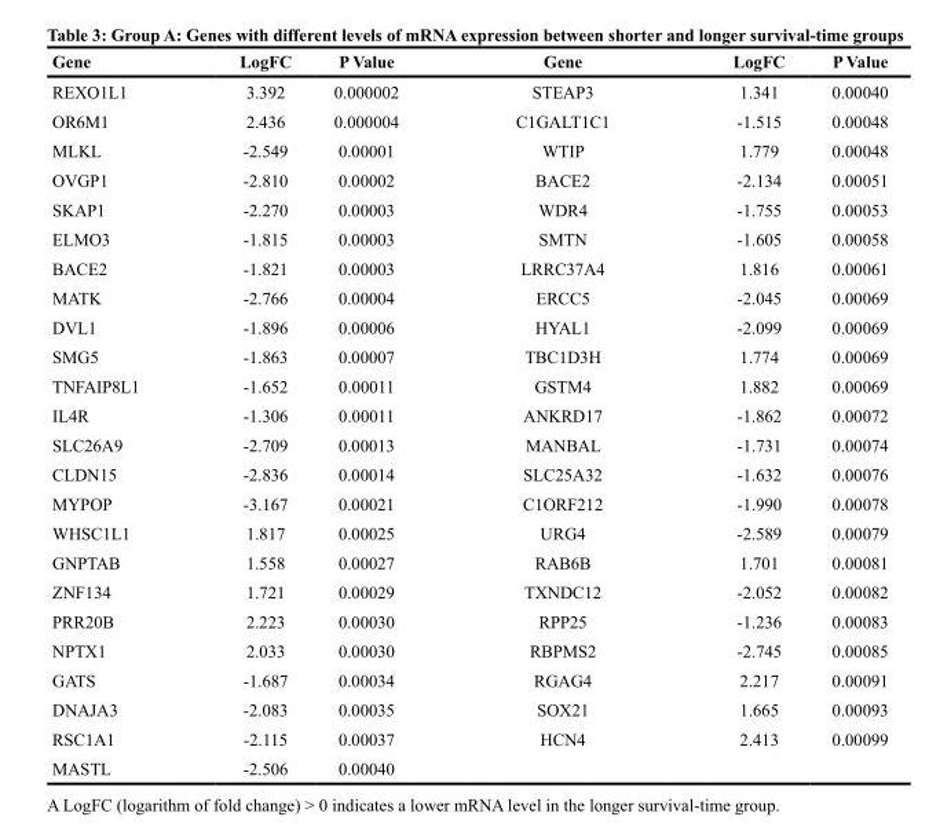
<table><thead><tr><td>Gene</td><td>LogFC</td><td>P Value</td><td>Gene</td><td>LogFC</td><td>P Value</td></tr></thead><tbody><tr><td>REXO1L1</td><td>3.392</td><td>0.000002</td><td>STEAP3</td><td>1.341</td><td>0.00040</td></tr><tr><td>OR6M1</td><td>2.436</td><td>0.000004</td><td>C1GALT1C1</td><td>-1.515</td><td>0.00048</td></tr><tr><td>MLKL</td><td>-2.549</td><td>0.00001</td><td>WTIP</td><td>1.779</td><td>0.00048</td></tr><tr><td>OVGP1</td><td>-2.810</td><td>0.00002</td><td>BACE2</td><td>-2.134</td><td>0.00051</td></tr><tr><td>SKAP1</td><td>-2.270</td><td>0.00003</td><td>WDR4</td><td>-1.755</td><td>0.00053</td></tr><tr><td>ELMO3</td><td>-1.815</td><td>0.00003</td><td>SMTN</td><td>-1.605</td><td>0.00058</td></tr><tr><td>BACE2</td><td>-1.821</td><td>0.00003</td><td>LRRC37A4</td><td>1.816</td><td>0.00061</td></tr><tr><td>MATK</td><td>-2.766</td><td>0.00004</td><td>ERCC5</td><td>-2.045</td><td>0.00069</td></tr><tr><td>DVL1</td><td>-1.896</td><td>0.00006</td><td>HYAL1</td><td>-2.099</td><td>0.00069</td></tr><tr><td>SMG5</td><td>-1.863</td><td>0.00007</td><td>TBC1D3H</td><td>1.774</td><td>0.00069</td></tr><tr><td>TNFAIP8L1</td><td>-1.652</td><td>0.00011</td><td>GSTM4</td><td>1.882</td><td>0.00069</td></tr><tr><td>IL4R</td><td>-1.306</td><td>0.00011</td><td>ANKRD17</td><td>-1.862</td><td>0.00072</td></tr><tr><td>SLC26A9</td><td>-2.709</td><td>0.00013</td><td>MANBAL</td><td>-1.731</td><td>0.00074</td></tr><tr><td>CLDN15</td><td>-2.836</td><td>0.00014</td><td>SLC25A32</td><td>-1.632</td><td>0.00076</td></tr><tr><td>MYPOP</td><td>-3.167</td><td>0.00021</td><td>C1ORF212</td><td>-1.990</td><td>0.00078</td></tr><tr><td>WHSC1L1</td><td>1.817</td><td>0.00025</td><td>URG4</td><td>-2.589</td><td>0.00079</td></tr><tr><td>GNPTAB</td><td>1.558</td><td>0.00027</td><td>RAB6B</td><td>1.701</td><td>0.00081</td></tr><tr><td>ZNF134</td><td>1.721</td><td>0.00029</td><td>TXNDC12</td><td>-2.052</td><td>0.00082</td></tr><tr><td>PRR20B</td><td>2.223</td><td>0.00030</td><td>RPP25</td><td>-1.236</td><td>0.00083</td></tr><tr><td>NPTX1</td><td>2.033</td><td>0.00030</td><td>RBPMS2</td><td>-2.745</td><td>0.00085</td></tr><tr><td>GATS</td><td>-1.687</td><td>0.00034</td><td>RGAG4</td><td>2.217</td><td>0.00091</td></tr><tr><td>DNAJA3</td><td>-2.083</td><td>0.00035</td><td>SOX21</td><td>1.665</td><td>0.00093</td></tr><tr><td>RSC1A1</td><td>-2.115</td><td>0.00037</td><td>HCN4</td><td>2.413</td><td>0.00099</td></tr><tr><td>MASTL</td><td>-2.506</td><td>0.00040</td><td></td><td></td><td></td></tr></tbody></table>